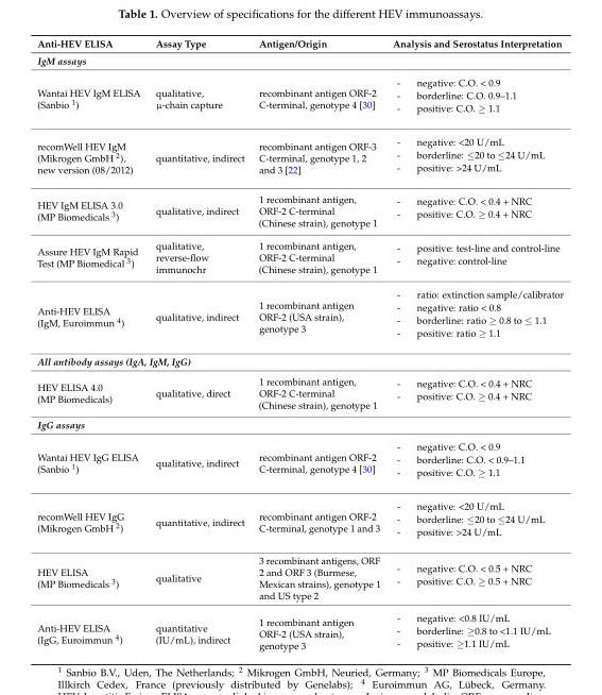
<table><thead><tr><td>Anti-HEV ELISA</td><td>Assay Type</td><td>Antigen/Origin</td><td>Analysis and Serostatus Interpretation</td></tr></thead><tbody><tr><td colspan="4">IgM assays</td></tr><tr><td>Wantai HEV IgM ELISA (Sanbio <sup>1</sup>)</td><td>qualitative, µ-chain capture</td><td>recombinant antigen ORF-2 C-terminal, genotype 4 [30]</td><td>- negative: C.O. &lt; 0.9 - borderline: C.O. 0.9–1.1 - positive: C.O. ≥ 1.1</td></tr><tr><td>recomWell HEV IgM (Mikrogen GmbH <sup>2</sup>), new version (08/2012)</td><td>quantitative, indirect</td><td>recombinant antigen ORF-3 C-terminal, genotype 1, 2 and 3 [22]</td><td>- negative: &lt;20 U/mL - borderline: ≤20 to ≤24 U/mL - positive: &gt;24 U/mL</td></tr><tr><td>HEV IgM ELISA 3.0 (MP Biomedicals <sup>3</sup>)</td><td>qualitative, indirect</td><td>1 recombinant antigen, ORF-2 C-terminal (Chinese strain), genotype 1</td><td>- negative: C.O. &lt; 0.4 + NRC - positive: C.O. ≥ 0.4 + NRC</td></tr><tr><td>Assure HEV IgM Rapid Test (MP Biomedical <sup>3</sup>)</td><td>qualitative, reverse-flow immunochr</td><td>1 recombinant antigen, ORF-2 C-terminal (Chinese strain), genotype 1</td><td>- positive: test-line and control-line - negative: control-line</td></tr><tr><td>Anti-HEV ELISA (IgM, Euroimmun <sup>4</sup>)</td><td>qualitative, indirect</td><td>1 recombinant antigen ORF-2 (USA strain), genotype 3</td><td>- ratio: extinction sample/calibrator - negative: ratio &lt; 0.8 - borderline: ratio ≥ 0.8 to ≤ 1.1 - positive: ratio ≥ 1.1</td></tr><tr><td colspan="4">All antibody assays (IgA, IgM, IgG)</td></tr><tr><td>HEV ELISA 4.0 (MP Biomedicals)</td><td>qualitative, direct</td><td>1 recombinant antigen, ORF-2 C-terminal (Chinese strain), genotype 1</td><td>- negative: C.O. &lt; 0.4 + NRC - positive: C.O. ≥ 0.4 + NRC</td></tr><tr><td colspan="4">IgG assays</td></tr><tr><td>Wantai HEV IgG ELISA (Sanbio <sup>1</sup>)</td><td>qualitative, indirect</td><td>recombinant antigen ORF-2 C-terminal, genotype 4 [30]</td><td>- negative: C.O. &lt; 0.9 - borderline: C.O. &lt; 0.9–1.1 - positive: C.O. ≥ 1.1</td></tr><tr><td>recomWell HEV IgG (Mikrogen GmbH <sup>2</sup>)</td><td>quantitative, indirect</td><td>recombinant antigen ORF-2 C-terminal, genotype 1 and 3</td><td>- negative: &lt;20 U/mL - borderline: ≤20 to ≤24 U/mL - positive: &gt;24 U/mL</td></tr><tr><td>HEV ELISA (MP Biomedicals <sup>3</sup>)</td><td>qualitative</td><td>3 recombinant antigens, ORF 2 and ORF 3 (Burmese, Mexican strains), genotype 1 and US type 2</td><td>- negative: C.O. &lt; 0.5 + NRC - positive: C.O. ≥ 0.5 + NRC</td></tr><tr><td>Anti-HEV ELISA (IgG, Euroimmun <sup>4</sup>)</td><td>quantitative (IU/mL), indirect</td><td>1 recombinant antigen ORF-2 (USA strain), genotype 3</td><td>- negative: &lt;0.8 IU/mL - borderline: ≥0.8 to &lt;1.1 IU/mL - positive: ≥1.1 IU/mL</td></tr></tbody></table>